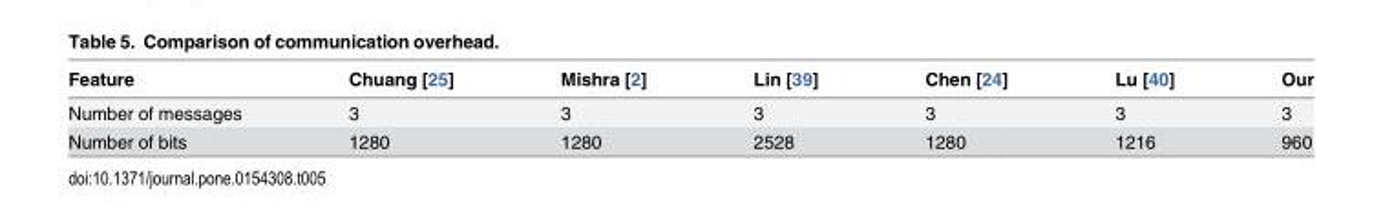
<table><thead><tr><td>Feature</td><td>Chuang [25]</td><td>Mishra [2]</td><td>Lin [39]</td><td>Chen [24]</td><td>Lu [40]</td><td>Our</td></tr></thead><tbody><tr><td>Number of messages</td><td>3</td><td>3</td><td>3</td><td>3</td><td>3</td><td>3</td></tr><tr><td>Number of bits</td><td>1280</td><td>1280</td><td>2528</td><td>1280</td><td>1216</td><td>960</td></tr></tbody></table>